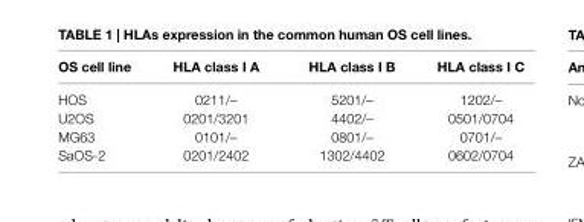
<table><thead><tr><td>OS cell line</td><td>HLA class i A</td><td>HLA class i B</td><td>HLA class i C</td></tr></thead><tbody><tr><td>HOS</td><td>0211/–</td><td>5201/–</td><td>1202/–</td></tr><tr><td>U2OS</td><td>0201/3201</td><td>4402/–</td><td>0501/0704</td></tr><tr><td>MG63</td><td>0101/–</td><td>0801/–</td><td>0701/–</td></tr><tr><td>SaOS-2</td><td>0201/2402</td><td>1302/4402</td><td>0602/0704</td></tr></tbody></table>